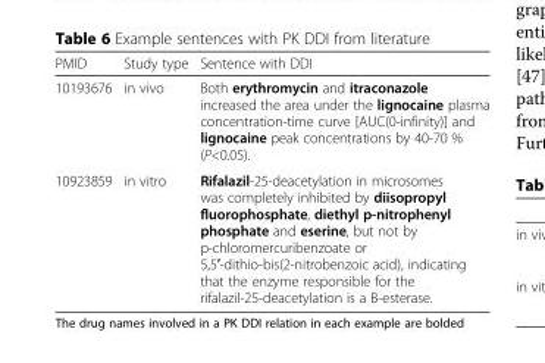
<table><thead><tr><td>PMID</td><td>Study type</td><td>Sentence with DDI</td></tr></thead><tbody><tr><td>10193676</td><td>in vivo</td><td>Both erythromycin and itraconazole increased the area under the lignocaine plasma concentration-time curve [AUC(0-infinity)] and lignocaine peak concentrations by 40-70 % (P&lt;0.05).</td></tr><tr><td>10923859</td><td>in vitro</td><td>Rifalazil-25-deacetylation in microsomes was completely inhibited by diisopropyl fluorophosphate, diethyl p-nitrophenyl phosphate and eserine, but not by p-chloromercuribenzoate or 5,5′-dithio-bis(2-nitrobenzoic acid), indicating that the enzyme responsible for the rifalazil-25-deacetylation is a B-esterase.</td></tr></tbody></table>